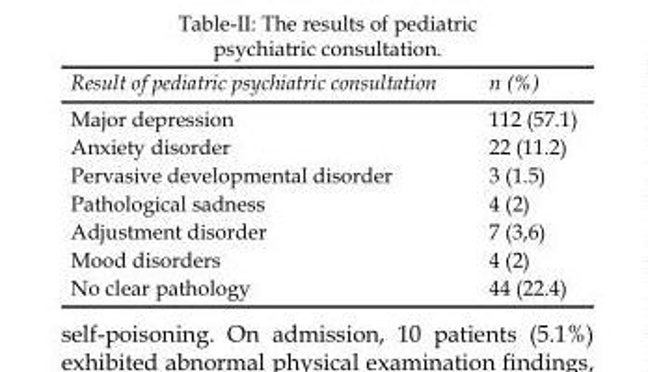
<table><thead><tr><td>Result of pediatric psychiatric consultation</td><td>n (%)</td></tr></thead><tbody><tr><td>Major depression</td><td>112 (57.1)</td></tr><tr><td>Anxiety disorder</td><td>22 (11.2)</td></tr><tr><td>Pervasive developmental disorder</td><td>3 (1.5)</td></tr><tr><td>Pathological sadness</td><td>4 (2)</td></tr><tr><td>Adjustment disorder</td><td>7 (3,6)</td></tr><tr><td>Mood disorders</td><td>4 (2)</td></tr><tr><td>No clear pathology</td><td>44 (22.4)</td></tr></tbody></table>